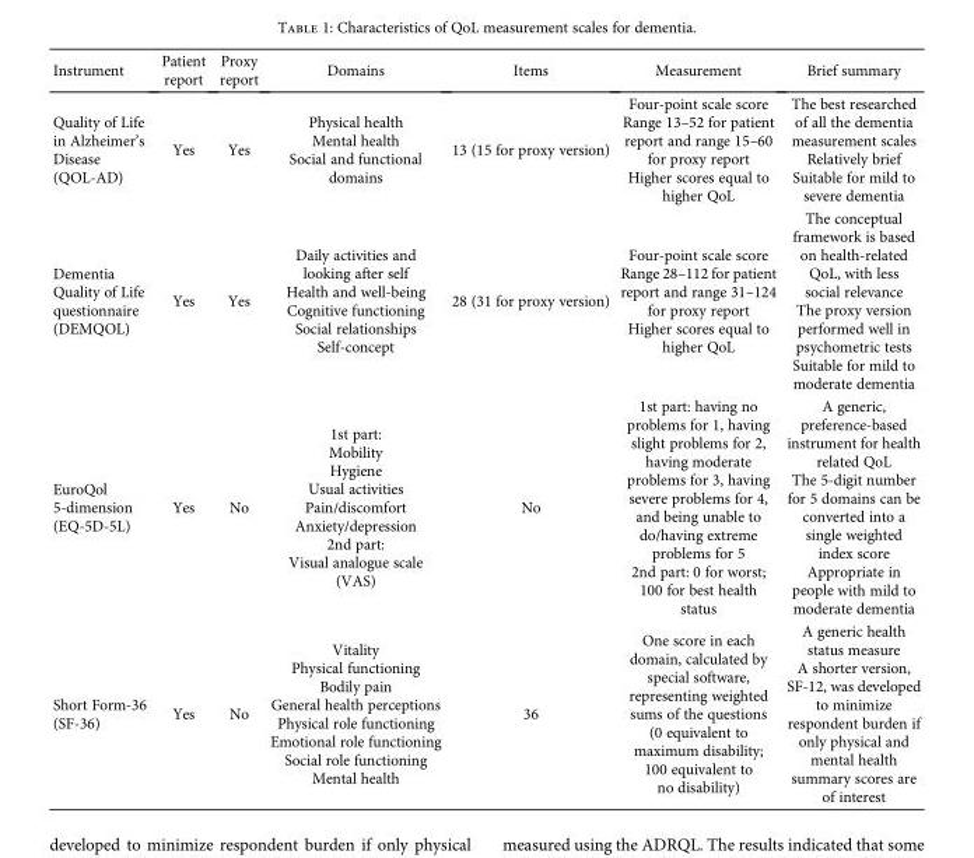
<table><thead><tr><td>Instrument</td><td>Patient report</td><td>Proxy report</td><td>Domains</td><td>Items</td><td>Measurement</td><td>Brief summary</td></tr></thead><tbody><tr><td>Quality of Life in Alzheimer’s Disease (QOL-AD)</td><td>Yes</td><td>Yes</td><td>Physical health Mental health Social and functional domains</td><td>13 (15 for proxy version)</td><td>Four-point scale score Range 13–52 for patient report and range 15–60 for proxy report Higher scores equal to higher QoL</td><td>The best researched of all the dementia measurement scales Relatively brief Suitable for mild to severe dementia</td></tr><tr><td>Dementia Quality of Life questionnaire (DEMQOL)</td><td>Yes</td><td>Yes</td><td>Daily activities and looking after self Health and well-being Cognitive functioning Social relationships Self-concept</td><td>28 (31 for proxy version)</td><td>Four-point scale score Range 28–112 for patient report and range 31–124 for proxy report Higher scores equal to higher QoL</td><td>The conceptual framework is based on health-related QoL, with less social relevance The proxy version performed well in psychometric tests Suitable for mild to moderate dementia</td></tr><tr><td>EuroQol 5-dimension (EQ-5D-5L)</td><td>Yes</td><td>No</td><td>1st part: Mobility Hygiene Usual activities Pain/discomfort Anxiety/depression 2nd part: Visual analogue scale (VAS)</td><td>No</td><td>1st part: having no problems for 1, having slight problems for 2, having moderate problems for 3, having severe problems for 4, and being unable to do/having extreme problems for 5 2nd part: 0 for worst; 100 for best health status</td><td>A generic, preference-based instrument for health related QoL The 5-digit number for 5 domains can be converted into a single weighted index score Appropriate in people with mild to moderate dementia</td></tr><tr><td>Short Form-36 (SF-36)</td><td>Yes</td><td>No</td><td>Vitality Physical functioning Bodily pain General health perceptions Physical role functioning Emotional role functioning Social role functioning Mental health</td><td>36</td><td>One score in each domain, calculated by special software, representing weighted sums of the questions (0 equivalent to maximum disability; 100 equivalent to no disability)</td><td>A generic health status measure A shorter version, SF-12, was developed to minimize respondent burden if only physical and mental health summary scores are of interest</td></tr></tbody></table>